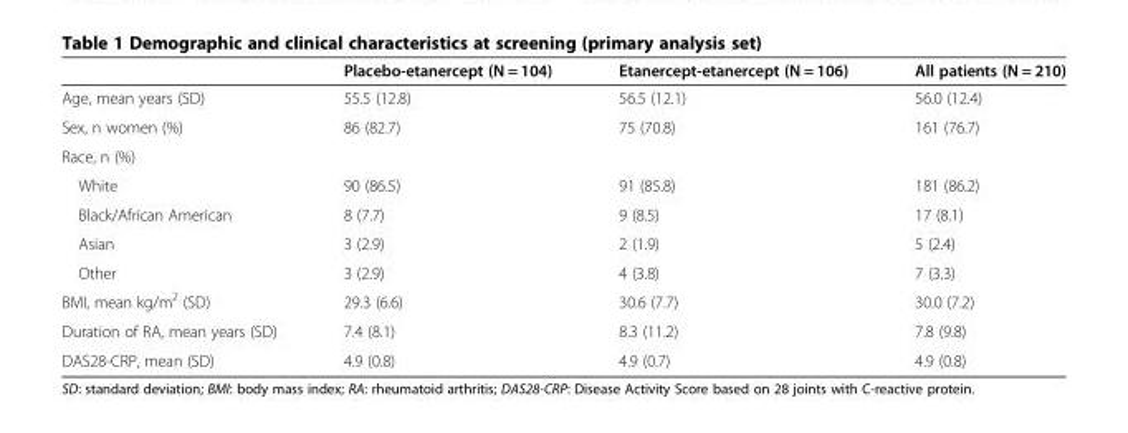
<table><thead><tr><td></td><td>Placebo-etanercept (N = 104)</td><td>Etanercept-etanercept (N = 106)</td><td>All patients (N = 210)</td></tr></thead><tbody><tr><td>Age, mean years (SD)</td><td>55.5 (12.8)</td><td>56.5 (12.1)</td><td>56.0 (12.4)</td></tr><tr><td>Sex, n women (%)</td><td>86 (82.7)</td><td>75 (70.8)</td><td>161 (76.7)</td></tr><tr><td colspan="4">Race, n (%)</td></tr><tr><td>White</td><td>90 (86.5)</td><td>91 (85.8)</td><td>181 (86.2)</td></tr><tr><td>Black/African American</td><td>8 (7.7)</td><td>9 (8.5)</td><td>17 (8.1)</td></tr><tr><td>Asian</td><td>3 (2.9)</td><td>2 (1.9)</td><td>5 (2.4)</td></tr><tr><td>Other</td><td>3 (2.9)</td><td>4 (3.8)</td><td>7 (3.3)</td></tr><tr><td>BMI, mean kg/m<sup>2</sup> (SD)</td><td>29.3 (6.6)</td><td>30.6 (7.7)</td><td>30.0 (7.2)</td></tr><tr><td>Duration of RA, mean years (SD)</td><td>7.4 (8.1)</td><td>8.3 (11.2)</td><td>7.8 (9.8)</td></tr><tr><td>DAS28-CRP, mean (SD)</td><td>4.9 (0.8)</td><td>4.9 (0.7)</td><td>4.9 (0.8)</td></tr></tbody></table>